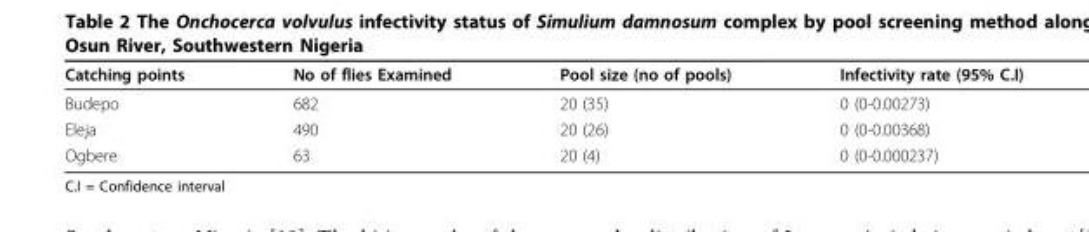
<table><thead><tr><td>Catching points</td><td>No of flies Examined</td><td>Pool size (no of pools)</td><td>Infectivity rate (95% C.I)</td></tr></thead><tbody><tr><td>Budepo</td><td>682</td><td>20 (35)</td><td>0 (0-0.00273)</td></tr><tr><td>Eleja</td><td>490</td><td>20 (26)</td><td>0 (0-0.00368)</td></tr><tr><td>Ogbere</td><td>63</td><td>20 (4)</td><td>0 (0-0.000237)</td></tr></tbody></table>